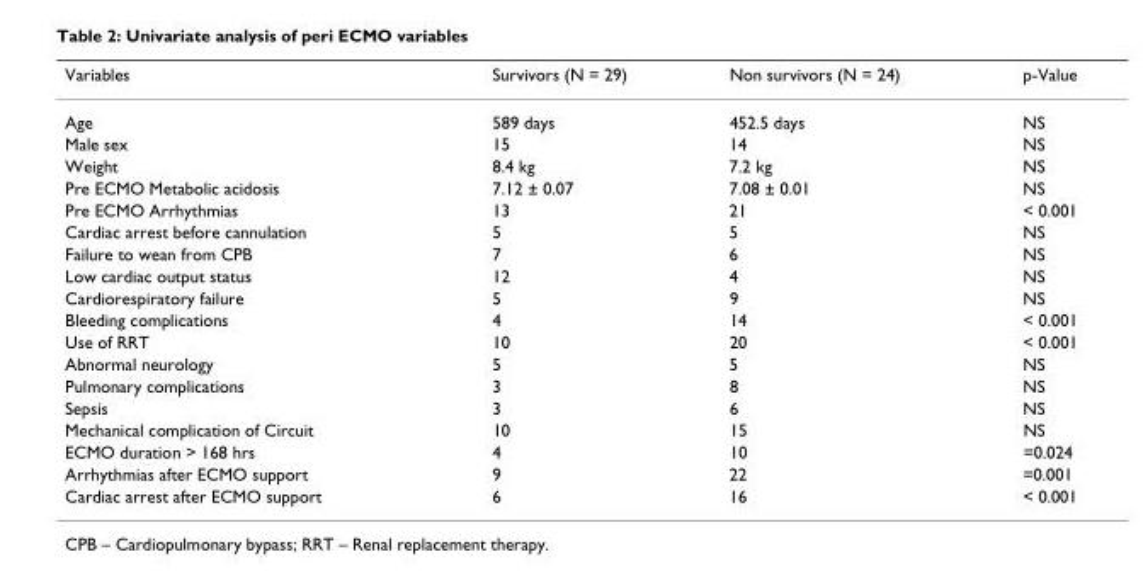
<table><thead><tr><td>Variables</td><td>Survivors (N = 29)</td><td>Non survivors (N = 24)</td><td>p-Value</td></tr></thead><tbody><tr><td>Age</td><td>589 days</td><td>452.5 days</td><td>NS</td></tr><tr><td>Male sex</td><td>15</td><td>14</td><td>NS</td></tr><tr><td>Weight</td><td>8.4 kg</td><td>7.2 kg</td><td>NS</td></tr><tr><td>Pre ECMO Metabolic acidosis</td><td>7.12 ± 0.07</td><td>7.08 ± 0.01</td><td>NS</td></tr><tr><td>Pre ECMO Arrhythmias</td><td>13</td><td>21</td><td>&lt; 0.001</td></tr><tr><td>Cardiac arrest before cannulation</td><td>5</td><td>5</td><td>NS</td></tr><tr><td>Failure to wean from CPB</td><td>7</td><td>6</td><td>NS</td></tr><tr><td>Low cardiac output status</td><td>12</td><td>4</td><td>NS</td></tr><tr><td>Cardiorespiratory failure</td><td>5</td><td>9</td><td>NS</td></tr><tr><td>Bleeding complications</td><td>4</td><td>14</td><td>&lt; 0.001</td></tr><tr><td>Use of RRT</td><td>10</td><td>20</td><td>&lt; 0.001</td></tr><tr><td>Abnormal neurology</td><td>5</td><td>5</td><td>NS</td></tr><tr><td>Pulmonary complications</td><td>3</td><td>8</td><td>NS</td></tr><tr><td>Sepsis</td><td>3</td><td>6</td><td>NS</td></tr><tr><td>Mechanical complication of Circuit</td><td>10</td><td>15</td><td>NS</td></tr><tr><td>ECMO duration &gt; 168 hrs</td><td>4</td><td>10</td><td>=0.024</td></tr><tr><td>Arrhythmias after ECMO support</td><td>9</td><td>22</td><td>=0.001</td></tr><tr><td>Cardiac arrest after ECMO support</td><td>6</td><td>16</td><td>&lt; 0.001</td></tr></tbody></table>